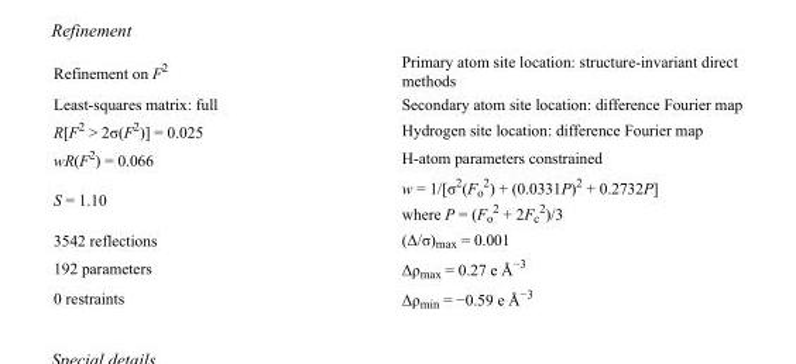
<table><tbody><tr><td>Refinement on F<sup>2</sup></td><td>Primary atom site location: structure-invariant direct methods</td></tr><tr><td>Least-squares matrix: full</td><td>Secondary atom site location: difference Fourier map</td></tr><tr><td>R[F<sup>2</sup> &gt; 2σ(F<sup>2</sup>)] = 0.025</td><td>Hydrogen site location: difference Fourier map</td></tr><tr><td>wR(F<sup>2</sup>) = 0.066</td><td>H-atom parameters constrained</td></tr><tr><td>S = 1.10</td><td>w = 1/[σ<sup>2</sup>(F<sub>o</sub> <sup>2</sup>) + (0.0331P)<sup>2</sup> + 0.2732P] where P = (F<sub>o</sub> <sup>2</sup> + 2F<sub>c</sub> <sup>2</sup>)/3</td></tr><tr><td>3542 reflections</td><td>(Δ/σ)<sub>max</sub> = 0.001</td></tr><tr><td>192 parameters</td><td>Δρ<sub>max</sub> = 0.27 e Å<sup>−3</sup></td></tr><tr><td>0 restraints</td><td>Δρ<sub>min</sub> = −0.59 e Å<sup>−3</sup></td></tr></tbody></table>